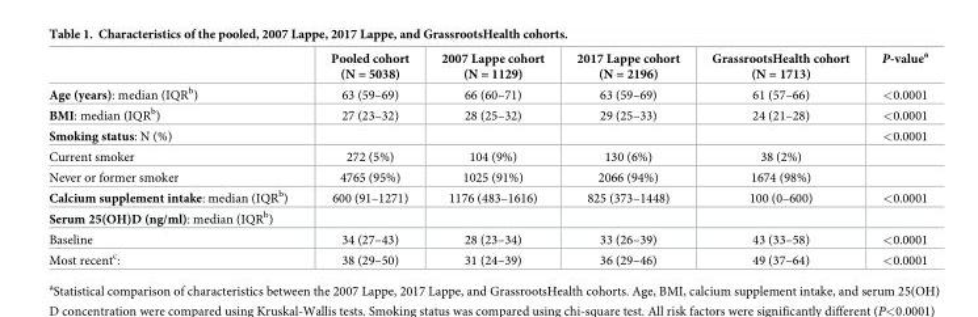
<table><thead><tr><td></td><td>Pooled cohort (N = 5038)</td><td>2007 Lappe cohort (N = 1129)</td><td>2017 Lappe cohort (N = 2196)</td><td>GrassrootsHealth cohort (N = 1713)</td><td>P-value<sup>a</sup></td></tr></thead><tbody><tr><td>Age (years): median (IQR<sup>b</sup>)</td><td>63 (59–69)</td><td>66 (60–71)</td><td>63 (59–69)</td><td>61 (57–66)</td><td>&lt;0.0001</td></tr><tr><td>BMI: median (IQR<sup>b</sup>)</td><td>27 (23–32)</td><td>28 (25–32)</td><td>29 (25–33)</td><td>24 (21–28)</td><td>&lt;0.0001</td></tr><tr><td>Smoking status: N (%)</td><td></td><td></td><td></td><td></td><td>&lt;0.0001</td></tr><tr><td>Current smoker</td><td>272 (5%)</td><td>104 (9%)</td><td>130 (6%)</td><td>38 (2%)</td><td></td></tr><tr><td>Never or former smoker</td><td>4765 (95%)</td><td>1025 (91%)</td><td>2066 (94%)</td><td>1674 (98%)</td><td></td></tr><tr><td>Calcium supplement intake: median (IQR<sup>b</sup>)</td><td>600 (91–1271)</td><td>1176 (483–1616)</td><td>825 (373–1448)</td><td>100 (0–600)</td><td>&lt;0.0001</td></tr><tr><td colspan="6">Serum 25(OH)D (ng/ml): median (IQR<sup>b</sup>)</td></tr><tr><td>Baseline</td><td>34 (27–43)</td><td>28 (23–34)</td><td>33 (26–39)</td><td>43 (33–58)</td><td>&lt;0.0001</td></tr><tr><td>Most recent<sup>c</sup>:</td><td>38 (29–50)</td><td>31 (24–39)</td><td>36 (29–46)</td><td>49 (37–64)</td><td>&lt;0.0001</td></tr></tbody></table>